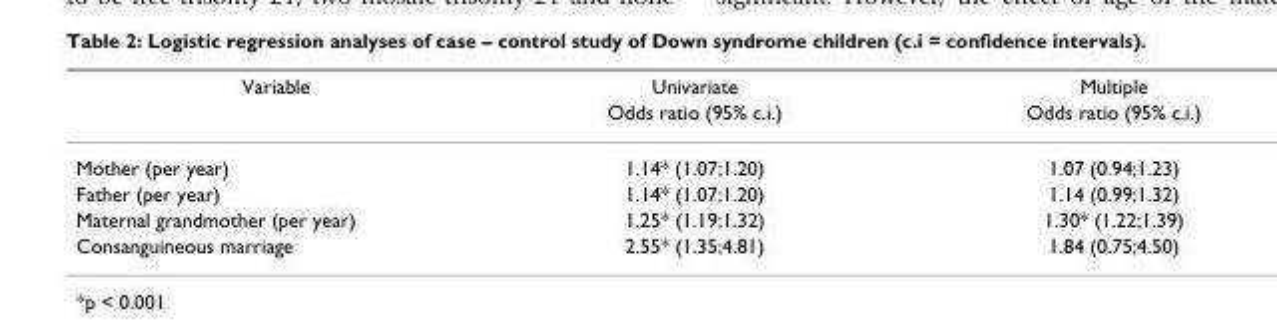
<table><thead><tr><td rowspan="2">Variable</td><td rowspan="2">Univariate Odds ratio (95% c.i.)</td><td rowspan="2">Multiple Odds ratio (95% c.i.)</td></tr><tr></tr></thead><tbody><tr><td>Mother (per year)</td><td>1.14* (1.07;1.20)</td><td>1.07 (0.94;1.23)</td></tr><tr><td>Father (per year)</td><td>1.14* (1.07;1.20)</td><td>1.14 (0.99;1.32)</td></tr><tr><td>Maternal grandmother (per year)</td><td>1.25* (1.19;1.32)</td><td>1.30* (1.22;1.39)</td></tr><tr><td>Consanguineous marriage</td><td>2.55* (1.35;4.81)</td><td>1.84 (0.75;4.50)</td></tr></tbody></table>